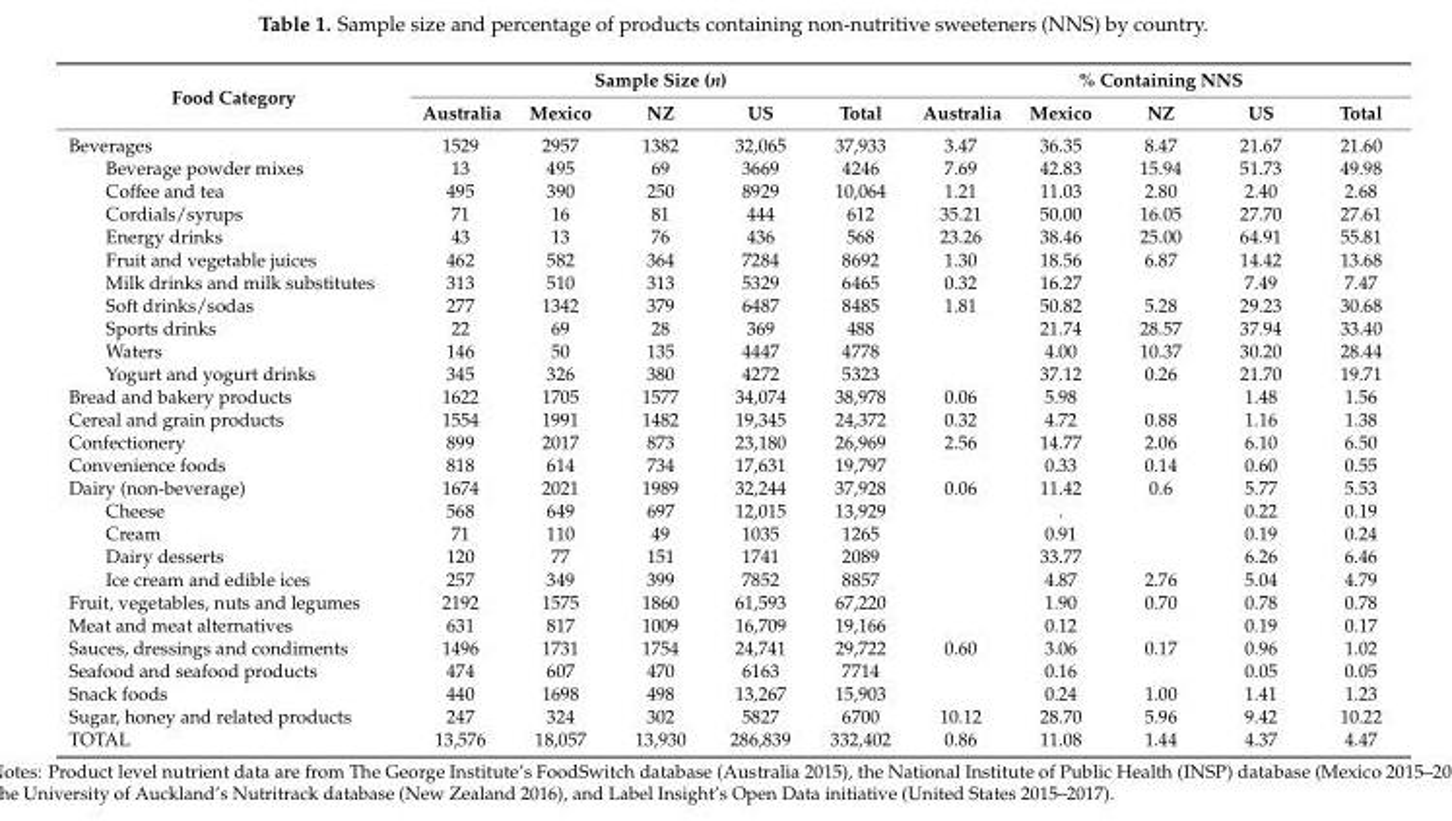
<table><thead><tr><td rowspan="2">Food Category</td><td colspan="5">Sample Size (n)</td><td colspan="5">% Containing NNS</td></tr><tr><td>Australia</td><td>Mexico</td><td>NZ</td><td>US</td><td>Total</td><td>Australia</td><td>Mexico</td><td>NZ</td><td>US</td><td>Total</td></tr></thead><tbody><tr><td>Beverages</td><td>1529</td><td>2957</td><td>1382</td><td>32,065</td><td>37,933</td><td>3.47</td><td>36.35</td><td>8.47</td><td>21.67</td><td>21.60</td></tr><tr><td>Beverage powder mixes</td><td>13</td><td>495</td><td>69</td><td>3669</td><td>4246</td><td>7.69</td><td>42.83</td><td>15.94</td><td>51.73</td><td>49.98</td></tr><tr><td>Coffee and tea</td><td>495</td><td>390</td><td>250</td><td>8929</td><td>10,064</td><td>1.21</td><td>11.03</td><td>2.80</td><td>2.40</td><td>2.68</td></tr><tr><td>Cordials/syrups</td><td>71</td><td>16</td><td>81</td><td>444</td><td>612</td><td>35.21</td><td>50.00</td><td>16.05</td><td>27.70</td><td>27.61</td></tr><tr><td>Energy drinks</td><td>43</td><td>13</td><td>76</td><td>436</td><td>568</td><td>23.26</td><td>38.46</td><td>25.00</td><td>64.91</td><td>55.81</td></tr><tr><td>Fruit and vegetable juices</td><td>462</td><td>582</td><td>364</td><td>7284</td><td>8692</td><td>1.30</td><td>18.56</td><td>6.87</td><td>14.42</td><td>13.68</td></tr><tr><td>Milk drinks and milk substitutes</td><td>313</td><td>510</td><td>313</td><td>5329</td><td>6465</td><td>0.32</td><td>16.27</td><td></td><td>7.49</td><td>7.47</td></tr><tr><td>Soft drinks/sodas</td><td>277</td><td>1342</td><td>379</td><td>6487</td><td>8485</td><td>1.81</td><td>50.82</td><td>5.28</td><td>29.23</td><td>30.68</td></tr><tr><td>Sports drinks</td><td>22</td><td>69</td><td>28</td><td>369</td><td>488</td><td></td><td>21.74</td><td>28.57</td><td>37.94</td><td>33.40</td></tr><tr><td>Waters</td><td>146</td><td>50</td><td>135</td><td>4447</td><td>4778</td><td></td><td>4.00</td><td>10.37</td><td>30.20</td><td>28.44</td></tr><tr><td>Yogurt and yogurt drinks</td><td>345</td><td>326</td><td>380</td><td>4272</td><td>5323</td><td></td><td>37.12</td><td>0.26</td><td>21.70</td><td>19.71</td></tr><tr><td>Bread and bakery products</td><td>1622</td><td>1705</td><td>1577</td><td>34,074</td><td>38,978</td><td>0.06</td><td>5.98</td><td></td><td>1.48</td><td>1.56</td></tr><tr><td>Cereal and grain products</td><td>1554</td><td>1991</td><td>1482</td><td>19,345</td><td>24,372</td><td>0.32</td><td>4.72</td><td>0.88</td><td>1.16</td><td>1.38</td></tr><tr><td>Confectionery</td><td>899</td><td>2017</td><td>873</td><td>23,180</td><td>26,969</td><td>2.56</td><td>14.77</td><td>2.06</td><td>6.10</td><td>6.50</td></tr><tr><td>Convenience foods</td><td>818</td><td>614</td><td>734</td><td>17,631</td><td>19,797</td><td></td><td>0.33</td><td>0.14</td><td>0.60</td><td>0.55</td></tr><tr><td>Dairy (non-beverage)</td><td>1674</td><td>2021</td><td>1989</td><td>32,244</td><td>37,928</td><td>0.06</td><td>11.42</td><td>0.6</td><td>5.77</td><td>5.53</td></tr><tr><td>Cheese</td><td>568</td><td>649</td><td>697</td><td>12,015</td><td>13,929</td><td></td><td>.</td><td></td><td>0.22</td><td>0.19</td></tr><tr><td>Cream</td><td>71</td><td>110</td><td>49</td><td>1035</td><td>1265</td><td></td><td>0.91</td><td></td><td>0.19</td><td>0.24</td></tr><tr><td>Dairy desserts</td><td>120</td><td>77</td><td>151</td><td>1741</td><td>2089</td><td></td><td>33.77</td><td></td><td>6.26</td><td>6.46</td></tr><tr><td>Ice cream and edible ices</td><td>257</td><td>349</td><td>399</td><td>7852</td><td>8857</td><td></td><td>4.87</td><td>2.76</td><td>5.04</td><td>4.79</td></tr><tr><td>Fruit, vegetables, nuts and legumes</td><td>2192</td><td>1575</td><td>1860</td><td>61,593</td><td>67,220</td><td></td><td>1.90</td><td>0.70</td><td>0.78</td><td>0.78</td></tr><tr><td>Meat and meat alternatives</td><td>631</td><td>817</td><td>1009</td><td>16,709</td><td>19,166</td><td></td><td>0.12</td><td></td><td>0.19</td><td>0.17</td></tr><tr><td>Sauces, dressings and condiments</td><td>1496</td><td>1731</td><td>1754</td><td>24,741</td><td>29,722</td><td>0.60</td><td>3.06</td><td>0.17</td><td>0.96</td><td>1.02</td></tr><tr><td>Seafood and seafood products</td><td>474</td><td>607</td><td>470</td><td>6163</td><td>7714</td><td></td><td>0.16</td><td></td><td>0.05</td><td>0.05</td></tr><tr><td>Snack foods</td><td>440</td><td>1698</td><td>498</td><td>13,267</td><td>15,903</td><td></td><td>0.24</td><td>1.00</td><td>1.41</td><td>1.23</td></tr><tr><td>Sugar, honey and related products</td><td>247</td><td>324</td><td>302</td><td>5827</td><td>6700</td><td>10.12</td><td>28.70</td><td>5.96</td><td>9.42</td><td>10.22</td></tr><tr><td>TOTAL</td><td>13,576</td><td>18,057</td><td>13,930</td><td>286,839</td><td>332,402</td><td>0.86</td><td>11.08</td><td>1.44</td><td>4.37</td><td>4.47</td></tr></tbody></table>